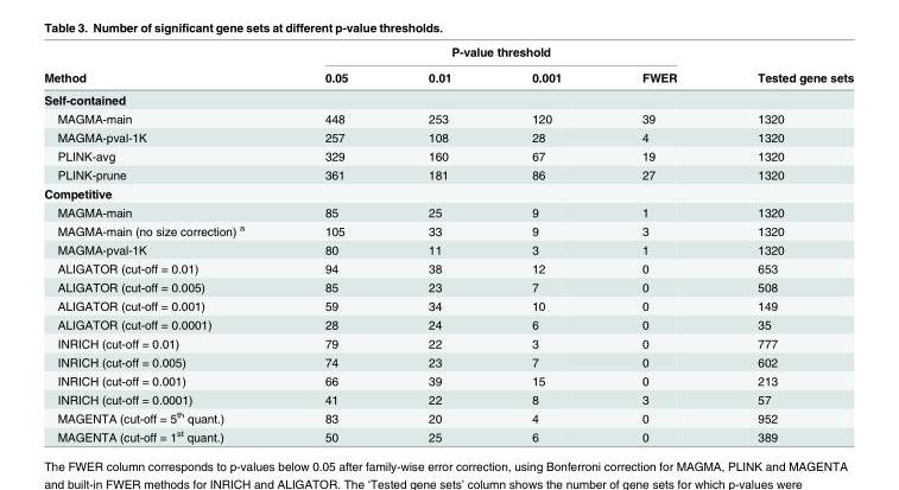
<table><thead><tr><td rowspan="2">Method</td><td colspan="4">P-value threshold</td><td rowspan="2">Tested gene sets</td></tr><tr><td>0.05</td><td>0.01</td><td>0.001</td><td>FWER</td></tr></thead><tbody><tr><td colspan="6">Self-contained</td></tr><tr><td>MAGMA-main</td><td>448</td><td>253</td><td>120</td><td>39</td><td>1320</td></tr><tr><td>MAGMA-pval-1K</td><td>257</td><td>108</td><td>28</td><td>4</td><td>1320</td></tr><tr><td>PLINK-avg</td><td>329</td><td>160</td><td>67</td><td>19</td><td>1320</td></tr><tr><td>PLINK-prune</td><td>361</td><td>181</td><td>86</td><td>27</td><td>1320</td></tr><tr><td colspan="6">Competitive</td></tr><tr><td>MAGMA-main</td><td>85</td><td>25</td><td>9</td><td>1</td><td>1320</td></tr><tr><td>MAGMA-main (no size correction) <sup>a</sup></td><td>105</td><td>33</td><td>9</td><td>3</td><td>1320</td></tr><tr><td>MAGMA-pval-1K</td><td>80</td><td>11</td><td>3</td><td>1</td><td>1320</td></tr><tr><td>ALIGATOR (cut-off = 0.01)</td><td>94</td><td>38</td><td>12</td><td>0</td><td>653</td></tr><tr><td>ALIGATOR (cut-off = 0.005)</td><td>85</td><td>23</td><td>7</td><td>0</td><td>508</td></tr><tr><td>ALIGATOR (cut-off = 0.001)</td><td>59</td><td>34</td><td>10</td><td>0</td><td>149</td></tr><tr><td>ALIGATOR (cut-off = 0.0001)</td><td>28</td><td>24</td><td>6</td><td>0</td><td>35</td></tr><tr><td>INRICH (cut-off = 0.01)</td><td>79</td><td>22</td><td>3</td><td>0</td><td>777</td></tr><tr><td>INRICH (cut-off = 0.005)</td><td>74</td><td>23</td><td>7</td><td>0</td><td>602</td></tr><tr><td>INRICH (cut-off = 0.001)</td><td>66</td><td>39</td><td>15</td><td>0</td><td>213</td></tr><tr><td>INRICH (cut-off = 0.0001)</td><td>41</td><td>22</td><td>8</td><td>3</td><td>57</td></tr><tr><td>MAGENTA (cut-off = 5<sup>th</sup> quant.)</td><td>83</td><td>20</td><td>4</td><td>0</td><td>952</td></tr><tr><td>MAGENTA (cut-off = 1<sup>st</sup> quant.)</td><td>50</td><td>25</td><td>6</td><td>0</td><td>389</td></tr></tbody></table>